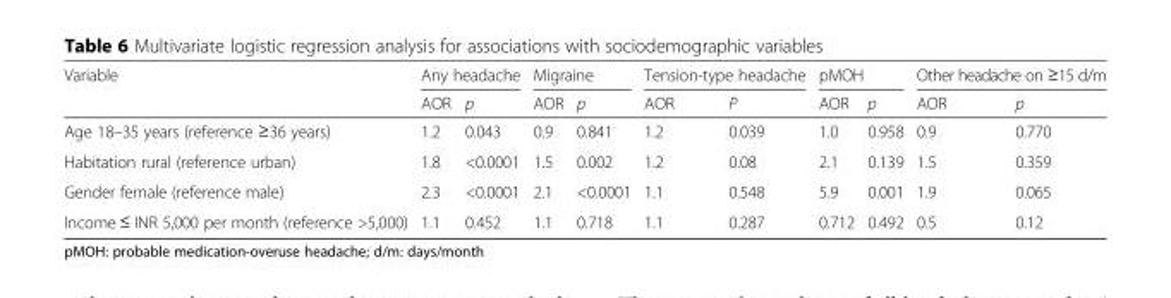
<table><thead><tr><td rowspan="2">Variable</td><td colspan="2">Any headache</td><td colspan="2">Migraine</td><td colspan="2">Tension-type headache</td><td colspan="2">pMOH</td><td colspan="2">Other headache on ≥15 d/m</td></tr><tr><td>AOR</td><td>p</td><td>AOR</td><td>p</td><td>AOR</td><td>P</td><td>AOR</td><td>p</td><td>AOR</td><td>p</td></tr></thead><tbody><tr><td>Age 18–35 years (reference ≥36 years)</td><td>1.2</td><td>0.043</td><td>0.9</td><td>0.841</td><td>1.2</td><td>0.039</td><td>1.0</td><td>0.958</td><td>0.9</td><td>0.770</td></tr><tr><td>Habitation rural (reference urban)</td><td>1.8</td><td>&lt;0.0001</td><td>1.5</td><td>0.002</td><td>1.2</td><td>0.08</td><td>2.1</td><td>0.139</td><td>1.5</td><td>0.359</td></tr><tr><td>Gender female (reference male)</td><td>2.3</td><td>&lt;0.0001</td><td>2.1</td><td>&lt;0.0001</td><td>1.1</td><td>0.548</td><td>5.9</td><td>0.001</td><td>1.9</td><td>0.065</td></tr><tr><td>Income ≤ INR 5,000 per month (reference &gt;5,000)</td><td>1.1</td><td>0.452</td><td>1.1</td><td>0.718</td><td>1.1</td><td>0.287</td><td>0.712</td><td>0.492</td><td>0.5</td><td>0.12</td></tr></tbody></table>